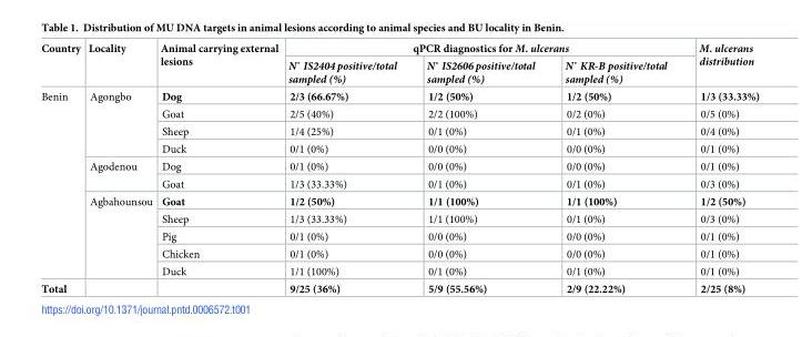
<table><thead><tr><td rowspan="2">Country</td><td rowspan="2">Locality</td><td rowspan="2">Animal carrying external lesions</td><td colspan="3">qPCR diagnostics for M. ulcerans</td><td rowspan="2">M. ulcerans distribution</td></tr><tr><td>N˚ IS2404 positive/total sampled (%)</td><td>N˚ IS2606 positive/total sampled (%)</td><td>N˚ KR-B positive/total sampled (%)</td></tr></thead><tbody><tr><td rowspan="11">Benin</td><td rowspan="4">Agongbo</td><td>Dog</td><td>2/3 (66.67%)</td><td>1/2 (50%)</td><td>1/2 (50%)</td><td>1/3 (33.33%)</td></tr><tr><td>Goat</td><td>2/5 (40%)</td><td>2/2 (100%)</td><td>0/2 (0%)</td><td>0/5 (0%)</td></tr><tr><td>Sheep</td><td>1/4 (25%)</td><td>0/1 (0%)</td><td>0/1 (0%)</td><td>0/4 (0%)</td></tr><tr><td>Duck</td><td>0/1 (0%)</td><td>0/0 (0%)</td><td>0/0 (0%)</td><td>0/1 (0%)</td></tr><tr><td rowspan="2">Agodenou</td><td>Dog</td><td>0/1 (0%)</td><td>0/0 (0%)</td><td>0/0 (0%)</td><td>0/1 (0%)</td></tr><tr><td>Goat</td><td>1/3 (33.33%)</td><td>0/1 (0%)</td><td>0/1 (0%)</td><td>0/3 (0%)</td></tr><tr><td rowspan="5">Agbahounsou</td><td>Goat</td><td>1/2 (50%)</td><td>1/1 (100%)</td><td>1/1 (100%)</td><td>1/2 (50%)</td></tr><tr><td>Sheep</td><td>1/3 (33.33%)</td><td>1/1 (100%)</td><td>0/1 (0%)</td><td>0/3 (0%)</td></tr><tr><td>Pig</td><td>0/1 (0%)</td><td>0/0 (0%)</td><td>0/0 (0%)</td><td>0/1 (0%)</td></tr><tr><td>Chicken</td><td>0/1 (0%)</td><td>0/0 (0%)</td><td>0/0 (0%)</td><td>0/1 (0%)</td></tr><tr><td>Duck</td><td>1/1 (100%)</td><td>0/1 (0%)</td><td>0/1 (0%)</td><td>0/1 (0%)</td></tr><tr><td>Total</td><td></td><td></td><td>9/25 (36%)</td><td>5/9 (55.56%)</td><td>2/9 (22.22%)</td><td>2/25 (8%)</td></tr></tbody></table>